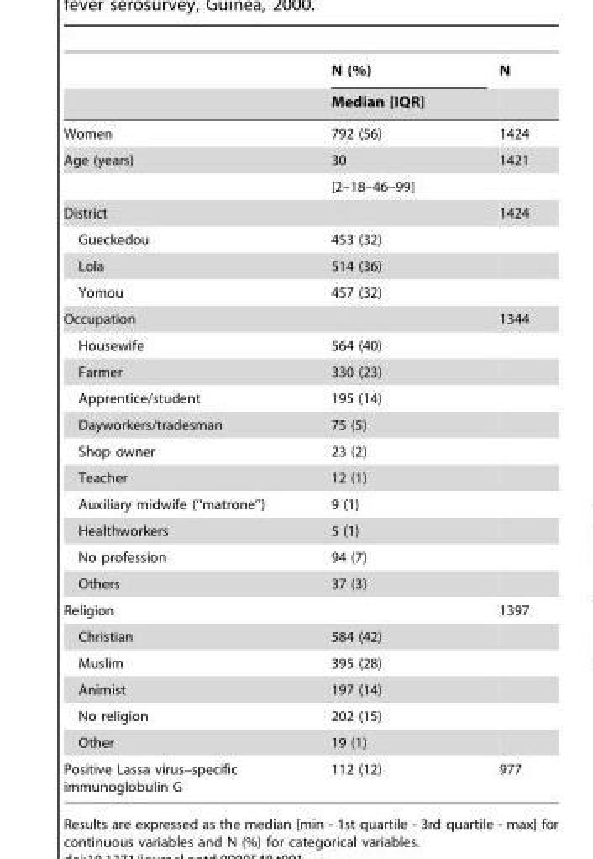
<table><thead><tr><td rowspan="2"></td><td rowspan="2">N (%) Median [IQR]</td><td rowspan="2">N</td></tr><tr></tr></thead><tbody><tr><td>Women</td><td>792 (56)</td><td>1424</td></tr><tr><td rowspan="2">Age (years)</td><td>30</td><td>1421</td></tr><tr><td>[2–18–46–99]</td><td></td></tr><tr><td>District</td><td></td><td>1424</td></tr><tr><td>Gueckedou</td><td>453 (32)</td><td></td></tr><tr><td>Lola</td><td>514 (36)</td><td></td></tr><tr><td>Yomou</td><td>457 (32)</td><td></td></tr><tr><td>Occupation</td><td></td><td>1344</td></tr><tr><td>Housewife</td><td>564 (40)</td><td></td></tr><tr><td>Farmer</td><td>330 (23)</td><td></td></tr><tr><td>Apprentice/student</td><td>195 (14)</td><td></td></tr><tr><td>Dayworkers/tradesman</td><td>75 (5)</td><td></td></tr><tr><td>Shop owner</td><td>23 (2)</td><td></td></tr><tr><td>Teacher</td><td>12 (1)</td><td></td></tr><tr><td>Auxiliary midwife (‘‘matrone’’)</td><td>9 (1)</td><td></td></tr><tr><td>Healthworkers</td><td>5 (1)</td><td></td></tr><tr><td>No profession</td><td>94 (7)</td><td></td></tr><tr><td>Others</td><td>37 (3)</td><td></td></tr><tr><td>Religion</td><td></td><td>1397</td></tr><tr><td>Christian</td><td>584 (42)</td><td></td></tr><tr><td>Muslim</td><td>395 (28)</td><td></td></tr><tr><td>Animist</td><td>197 (14)</td><td></td></tr><tr><td>No religion</td><td>202 (15)</td><td></td></tr><tr><td>Other</td><td>19 (1)</td><td></td></tr><tr><td>Positive Lassa virus–specific immunoglobulin G</td><td>112 (12)</td><td>977</td></tr></tbody></table>